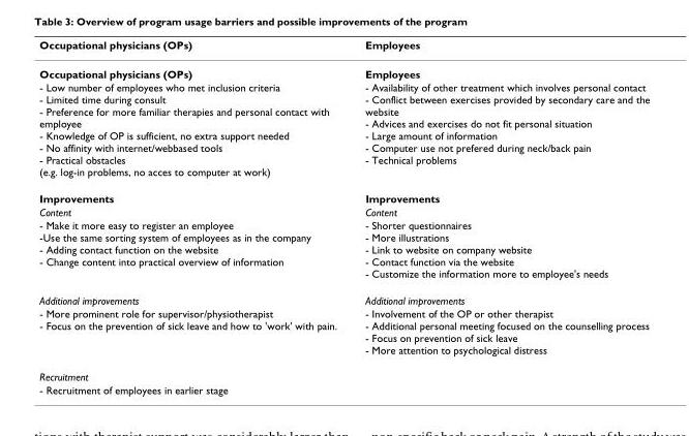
<table><thead><tr><td>Occupational physicians (OPs)</td><td>Employees</td></tr></thead><tbody><tr><td>Occupational physicians (OPs)</td><td>Employees</td></tr><tr><td>- Low number of employees who met inclusion criteria - Limited time during consult - Preference for more familiar therapies and personal contact with employee - Knowledge of OP is sufficient, no extra support needed - No affinity with internet/webbased tools - Practical obstacles (e.g. log-in problems, no acces to computer at work)</td><td>- Availability of other treatment which involves personal contact - Conflict between exercises provided by secondary care and the website - Advices and exercises do not fit personal situation - Large amount of information - Computer use not prefered during neck/back pain - Technical problems</td></tr><tr><td>Improvements</td><td>Improvements</td></tr><tr><td>Content</td><td>Content</td></tr><tr><td>- Make it more easy to register an employee -Use the same sorting system of employees as in the company - Adding contact function on the website - Change content into practical overview of information</td><td>- Shorter questionnaires - More illustrations - Link to website on company website - Contact function via the website - Customize the information more to employee&#x27;s needs</td></tr><tr><td>Additional improvements</td><td>Additional improvements</td></tr><tr><td>- More prominent role for supervisor/physiotherapist - Focus on the prevention of sick leave and how to &#x27;work&#x27; with pain.</td><td>- Involvement of the OP or other therapist - Additional personal meeting focused on the counselling process - Focus on prevention of sick leave - More attention to psychological distress</td></tr><tr><td colspan="2">Recruitment</td></tr><tr><td>- Recruitment of employees in earlier stage</td><td></td></tr></tbody></table>